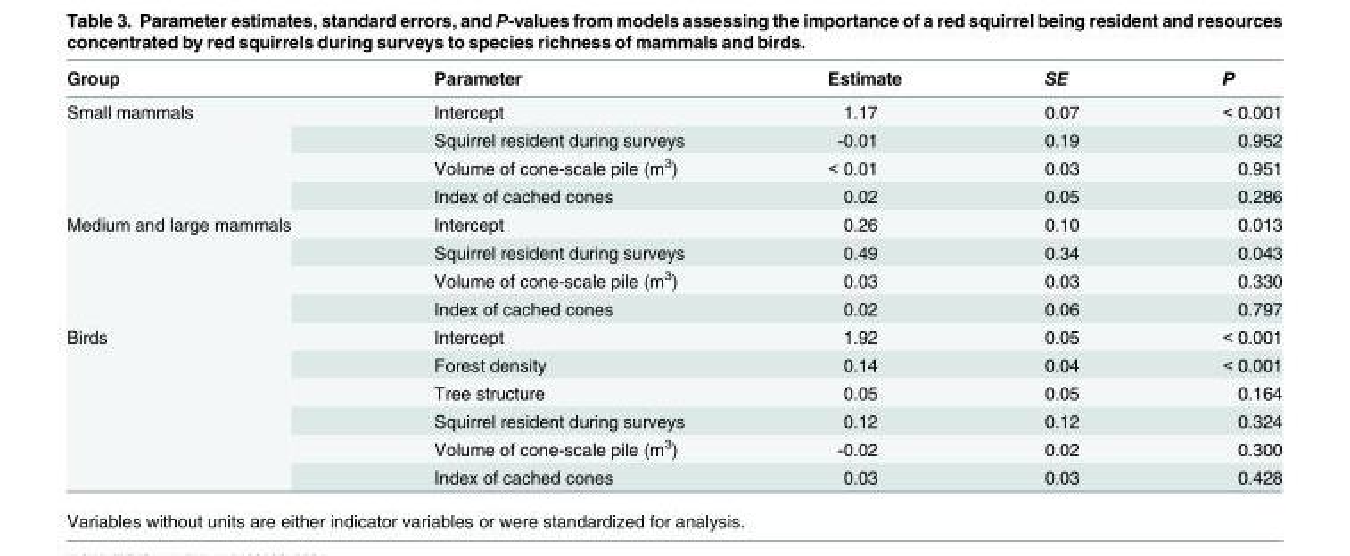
<table><thead><tr><td>Group</td><td>Parameter</td><td>Estimate</td><td>SE</td><td>P</td></tr></thead><tbody><tr><td rowspan="4">Small mammals</td><td>Intercept</td><td>1.17</td><td>0.07</td><td>&lt; 0.001</td></tr><tr><td>Squirrel resident during surveys</td><td>-0.01</td><td>0.19</td><td>0.952</td></tr><tr><td>Volume of cone-scale pile (m<sup>3</sup>)</td><td>&lt; 0.01</td><td>0.03</td><td>0.951</td></tr><tr><td>Index of cached cones</td><td>0.02</td><td>0.05</td><td>0.286</td></tr><tr><td rowspan="4">Medium and large mammals</td><td>Intercept</td><td>0.26</td><td>0.10</td><td>0.013</td></tr><tr><td>Squirrel resident during surveys</td><td>0.49</td><td>0.34</td><td>0.043</td></tr><tr><td>Volume of cone-scale pile (m<sup>3</sup>)</td><td>0.03</td><td>0.03</td><td>0.330</td></tr><tr><td>Index of cached cones</td><td>0.02</td><td>0.06</td><td>0.797</td></tr><tr><td rowspan="6">Birds</td><td>Intercept</td><td>1.92</td><td>0.05</td><td>&lt; 0.001</td></tr><tr><td>Forest density</td><td>0.14</td><td>0.04</td><td>&lt; 0.001</td></tr><tr><td>Tree structure</td><td>0.05</td><td>0.05</td><td>0.164</td></tr><tr><td>Squirrel resident during surveys</td><td>0.12</td><td>0.12</td><td>0.324</td></tr><tr><td>Volume of cone-scale pile (m<sup>3</sup>)</td><td>-0.02</td><td>0.02</td><td>0.300</td></tr><tr><td>Index of cached cones</td><td>0.03</td><td>0.03</td><td>0.428</td></tr></tbody></table>